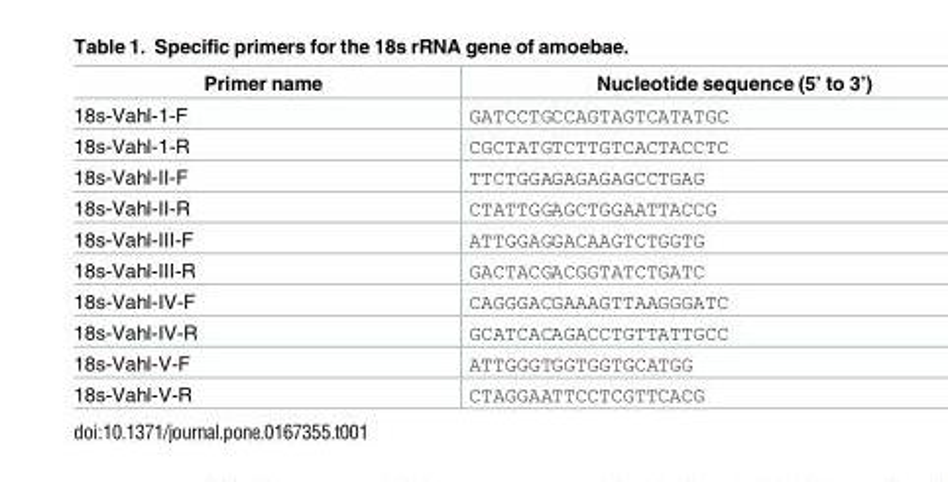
<table><thead><tr><td>Primer name</td><td>Nucleotide sequence (5’ to 3’)</td></tr></thead><tbody><tr><td>18s-Vahl-1-F</td><td>GATCCTGCCAGTAGTCATATGC</td></tr><tr><td>18s-Vahl-1-R</td><td>CGCTATGTCTTGTCACTACCTC</td></tr><tr><td>18s-Vahl-II-F</td><td>TTCTGGAGAGAGAGCCTGAG</td></tr><tr><td>18s-Vahl-II-R</td><td>CTATTGGAGCTGGAATTACCG</td></tr><tr><td>18s-Vahl-III-F</td><td>ATTGGAGGACAAGTCTGGTG</td></tr><tr><td>18s-Vahl-III-R</td><td>GACTACGACGGTATCTGATC</td></tr><tr><td>18s-Vahl-IV-F</td><td>CAGGGACGAAAGTTAAGGGATC</td></tr><tr><td>18s-Vahl-IV-R</td><td>GCATCACAGACCTGTTATTGCC</td></tr><tr><td>18s-Vahl-V-F</td><td>ATTGGGTGGTGGTGCATGG</td></tr><tr><td>18s-Vahl-V-R</td><td>CTAGGAATTCCTCGTTCACG</td></tr></tbody></table>